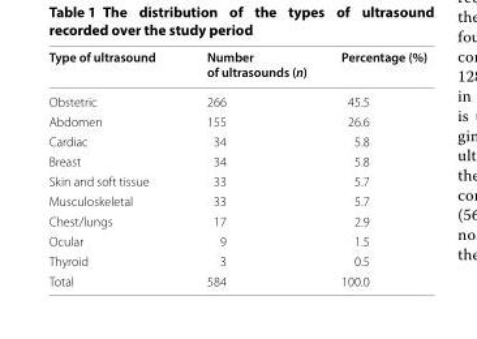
<table><thead><tr><td>Type of ultrasound</td><td>Number of ultrasounds (n)</td><td>Percentage (%)</td></tr></thead><tbody><tr><td>Obstetric</td><td>266</td><td>45.5</td></tr><tr><td>Abdomen</td><td>155</td><td>26.6</td></tr><tr><td>Cardiac</td><td>34</td><td>5.8</td></tr><tr><td>Breast</td><td>34</td><td>5.8</td></tr><tr><td>Skin and soft tissue</td><td>33</td><td>5.7</td></tr><tr><td>Musculoskeletal</td><td>33</td><td>5.7</td></tr><tr><td>Chest/lungs</td><td>17</td><td>2.9</td></tr><tr><td>Ocular</td><td>9</td><td>1.5</td></tr><tr><td>Thyroid</td><td>3</td><td>0.5</td></tr><tr><td>Total</td><td>584</td><td>100.0</td></tr></tbody></table>